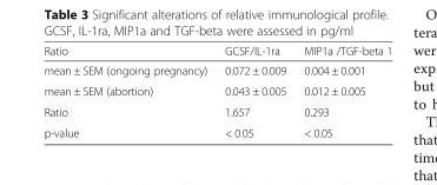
<table><thead><tr><td>Ratio</td><td>GCSF/IL-1ra</td><td>MIP1a /TGF-beta 1</td></tr></thead><tbody><tr><td>mean ± SEM (ongoing pregnancy)</td><td>0.072 ± 0.009</td><td>0.004 ± 0.001</td></tr><tr><td>mean ± SEM (abortion)</td><td>0.043 ± 0.005</td><td>0.012 ± 0.005</td></tr><tr><td>Ratio</td><td>1.657</td><td>0.293</td></tr><tr><td>p-value</td><td>&lt; 0.05</td><td>&lt; 0.05</td></tr></tbody></table>